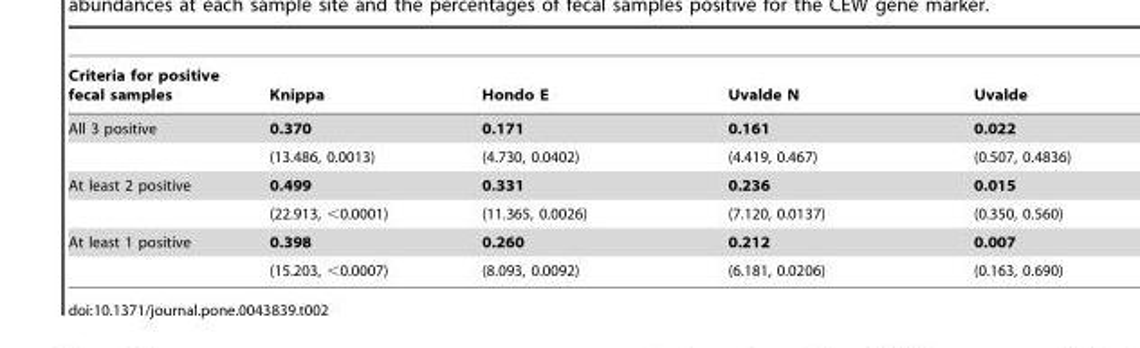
<table><thead><tr><td>Criteria for positive fecal samples</td><td>Knippa</td><td>Hondo E</td><td>Uvalde N</td><td>Uvalde</td></tr></thead><tbody><tr><td rowspan="2">All 3 positive</td><td>0.370</td><td>0.171</td><td>0.161</td><td>0.022</td></tr><tr><td>(13.486, 0.0013)</td><td>(4.730, 0.0402)</td><td>(4.419, 0.467)</td><td>(0.507, 0.4836)</td></tr><tr><td rowspan="2">At least 2 positive</td><td>0.499</td><td>0.331</td><td>0.236</td><td>0.015</td></tr><tr><td>(22.913, &lt;0.0001)</td><td>(11.365, 0.0026)</td><td>(7.120, 0.0137)</td><td>(0.350, 0.560)</td></tr><tr><td rowspan="2">At least 1 positive</td><td>0.398</td><td>0.260</td><td>0.212</td><td>0.007</td></tr><tr><td>(15.203, &lt;0.0007)</td><td>(8.093, 0.0092)</td><td>(6.181, 0.0206)</td><td>(0.163, 0.690)</td></tr></tbody></table>